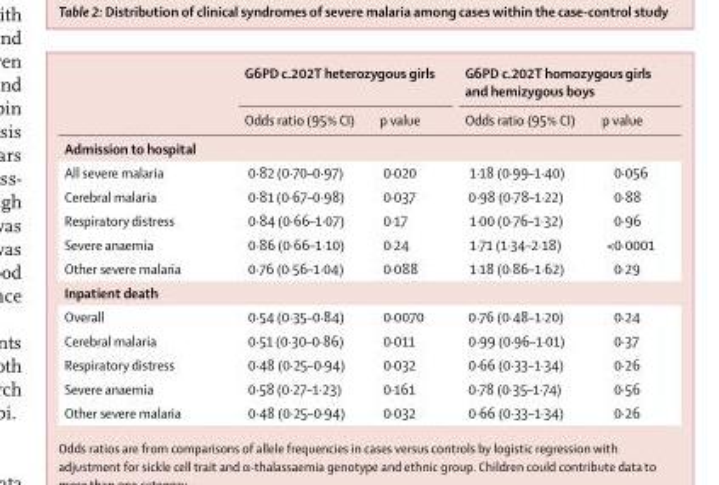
<table><thead><tr><td rowspan="2"></td><td colspan="2">G6PD c.202T heterozygous girls</td><td colspan="2">G6PD c.202T homozygous girls and hemizygous boys</td></tr><tr><td>Odds ratio (95% CI)</td><td>p value</td><td>Odds ratio (95% CI)</td><td>p value</td></tr></thead><tbody><tr><td colspan="5">Admission to hospital</td></tr><tr><td>All severe malaria</td><td>0·82 (0·70–0·97)</td><td>0·020</td><td>1·18 (0·99–1·40)</td><td>0·056</td></tr><tr><td>Cerebral malaria</td><td>0·81 (0·67–0·98)</td><td>0·037</td><td>0·98 (0·78–1·22)</td><td>0·88</td></tr><tr><td>Respiratory distress</td><td>0·84 (0·66–1·07)</td><td>0·17</td><td>1·00 (0·76–1·32)</td><td>0·96</td></tr><tr><td>Severe anaemia</td><td>0·86 (0·66–1·10)</td><td>0·24</td><td>1·71 (1·34–2·18)</td><td>&lt;0·0001</td></tr><tr><td>Other severe malaria</td><td>0·76 (0·56–1·04)</td><td>0·088</td><td>1·18 (0·86–1·62)</td><td>0·29</td></tr><tr><td colspan="5">Inpatient death</td></tr><tr><td>Overall</td><td>0·54 (0·35–0·84)</td><td>0·0070</td><td>0·76 (0·48–1·20)</td><td>0·24</td></tr><tr><td>Cerebral malaria</td><td>0·51 (0·30–0·86)</td><td>0·011</td><td>0·99 (0·96–1·01)</td><td>0·37</td></tr><tr><td>Respiratory distress</td><td>0·48 (0·25–0·94)</td><td>0·032</td><td>0·66 (0·33–1·34)</td><td>0·26</td></tr><tr><td>Severe anaemia</td><td>0·58 (0·27–1·23)</td><td>0·161</td><td>0·78 (0·35–1·74)</td><td>0·56</td></tr><tr><td>Other severe malaria</td><td>0·48 (0·25–0·94)</td><td>0·032</td><td>0·66 (0·33–1·34)</td><td>0·26</td></tr></tbody></table>